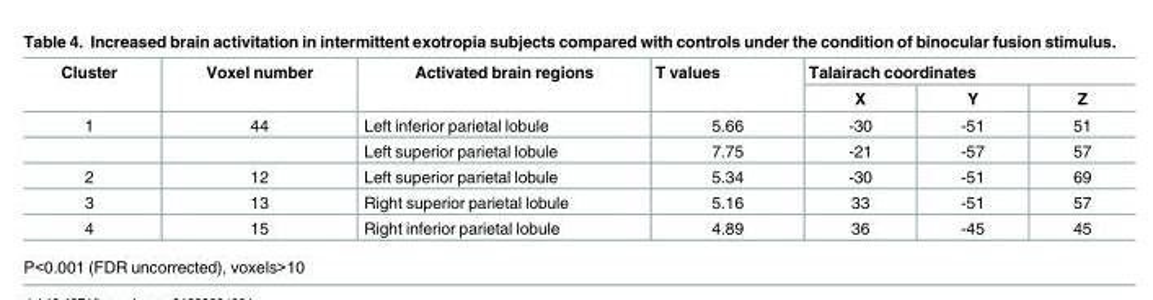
<table><thead><tr><td rowspan="2">Cluster</td><td rowspan="2">Voxel number</td><td rowspan="2">Activated brain regions</td><td rowspan="2">T values</td><td colspan="3">Talairach coordinates</td></tr><tr><td>X</td><td>Y</td><td>Z</td></tr></thead><tbody><tr><td rowspan="2">1</td><td>44</td><td>Left inferior parietal lobule</td><td>5.66</td><td>-30</td><td>-51</td><td>51</td></tr><tr><td></td><td>Left superior parietal lobule</td><td>7.75</td><td>-21</td><td>-57</td><td>57</td></tr><tr><td>2</td><td>12</td><td>Left superior parietal lobule</td><td>5.34</td><td>-30</td><td>-51</td><td>69</td></tr><tr><td>3</td><td>13</td><td>Right superior parietal lobule</td><td>5.16</td><td>33</td><td>-51</td><td>57</td></tr><tr><td>4</td><td>15</td><td>Right inferior parietal lobule</td><td>4.89</td><td>36</td><td>-45</td><td>45</td></tr></tbody></table>